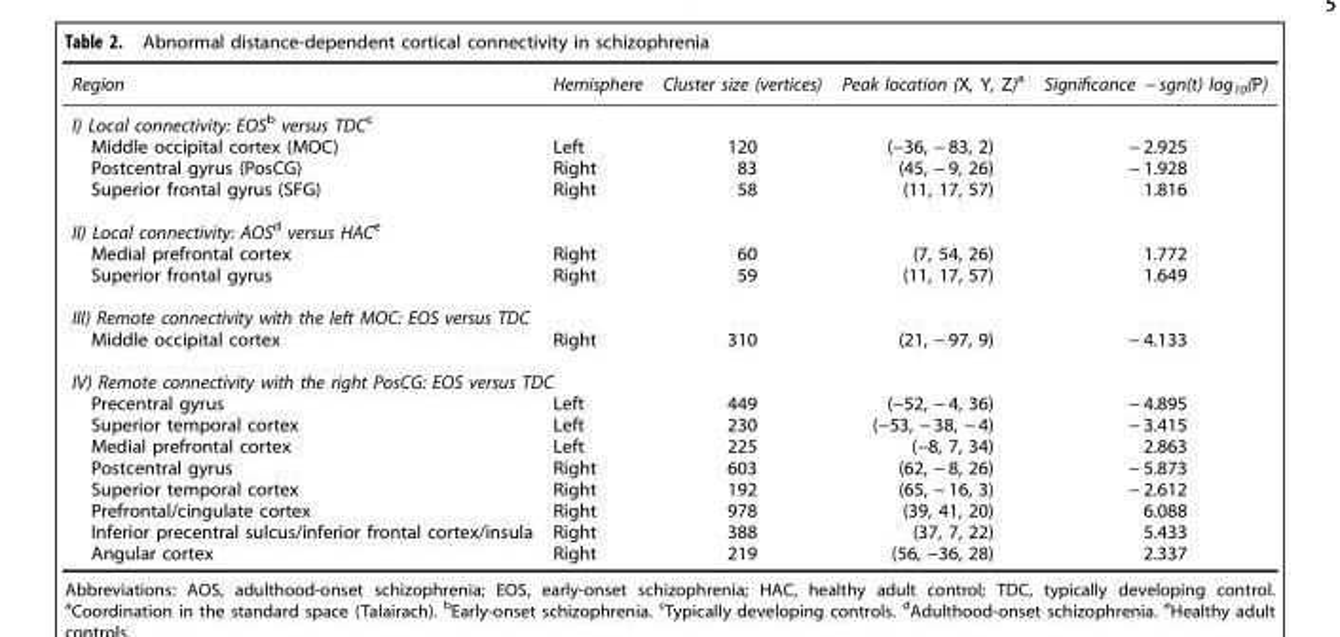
<table><thead><tr><td>Region</td><td>Hemisphere</td><td>Cluster size (vertices)</td><td>Peak location (X, Y, Z)<sup>a</sup></td><td>Significance − sgn(t) log<sub>10</sub>(P)</td></tr></thead><tbody><tr><td colspan="5">I) Local connectivity: EOS<sup>b</sup> versus TDC<sup>c</sup></td></tr><tr><td>Middle occipital cortex (MOC)</td><td>Left</td><td>120</td><td>(−36, − 83, 2)</td><td>− 2.925</td></tr><tr><td>Postcentral gyrus (PosCG)</td><td>Right</td><td>83</td><td>(45, − 9, 26)</td><td>− 1.928</td></tr><tr><td>Superior frontal gyrus (SFG)</td><td>Right</td><td>58</td><td>(11, 17, 57)</td><td>1.816</td></tr><tr><td colspan="5">II) Local connectivity: AOS<sup>d</sup> versus HAC<sup>e</sup></td></tr><tr><td>Medial prefrontal cortex</td><td>Right</td><td>60</td><td>(7, 54, 26)</td><td>1.772</td></tr><tr><td>Superior frontal gyrus</td><td>Right</td><td>59</td><td>(11, 17, 57)</td><td>1.649</td></tr><tr><td colspan="5">III) Remote connectivity with the left MOC: EOS versus TDC</td></tr><tr><td>Middle occipital cortex</td><td>Right</td><td>310</td><td>(21, − 97, 9)</td><td>− 4.133</td></tr><tr><td colspan="5">IV) Remote connectivity with the right PosCG: EOS versus TDC</td></tr><tr><td>Precentral gyrus</td><td>Left</td><td>449</td><td>(−52, − 4, 36)</td><td>− 4.895</td></tr><tr><td>Superior temporal cortex</td><td>Left</td><td>230</td><td>(−53, − 38, − 4)</td><td>− 3.415</td></tr><tr><td>Medial prefrontal cortex</td><td>Left</td><td>225</td><td>(−8, 7, 34)</td><td>2.863</td></tr><tr><td>Postcentral gyrus</td><td>Right</td><td>603</td><td>(62, − 8, 26)</td><td>− 5.873</td></tr><tr><td>Superior temporal cortex</td><td>Right</td><td>192</td><td>(65, − 16, 3)</td><td>− 2.612</td></tr><tr><td>Prefrontal/cingulate cortex</td><td>Right</td><td>978</td><td>(39, 41, 20)</td><td>6.088</td></tr><tr><td>Inferior precentral sulcus/inferior frontal cortex/insula</td><td>Right</td><td>388</td><td>(37, 7, 22)</td><td>5.433</td></tr><tr><td>Angular cortex</td><td>Right</td><td>219</td><td>(56, −36, 28)</td><td>2.337</td></tr></tbody></table>